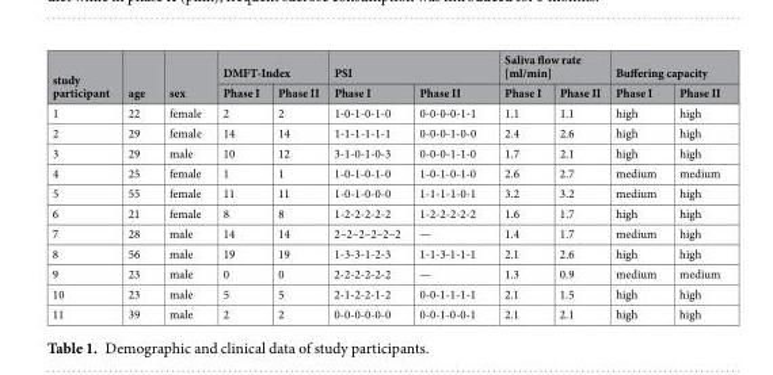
<table><thead><tr><td rowspan="2">study participant</td><td rowspan="2">age</td><td rowspan="2">sex</td><td colspan="2">DMFT-Index</td><td colspan="2">PSI</td><td colspan="2">Saliva flow rate [ml/min]</td><td colspan="2">Buffering capacity</td></tr><tr><td>Phase I</td><td>Phase II</td><td>Phase I</td><td>Phase II</td><td>Phase I</td><td>Phase II</td><td>Phase I</td><td>Phase II</td></tr></thead><tbody><tr><td>1</td><td>22</td><td>female</td><td>2</td><td>2</td><td>1-0-1-0-1-0</td><td>0-0-0-0-1-1</td><td>1.1</td><td>1.1</td><td>high</td><td>high</td></tr><tr><td>2</td><td>29</td><td>female</td><td>14</td><td>14</td><td>1-1-1-1-1-1</td><td>0-0-0-1-0-0</td><td>2.4</td><td>2.6</td><td>high</td><td>high</td></tr><tr><td>3</td><td>29</td><td>male</td><td>10</td><td>12</td><td>3-1-0-1-0-3</td><td>0-0-0-1-1-0</td><td>1.7</td><td>2.1</td><td>high</td><td>high</td></tr><tr><td>4</td><td>25</td><td>female</td><td>1</td><td>1</td><td>1-0-1-0-1-0</td><td>1-0-1-0-1-0</td><td>2.6</td><td>2.7</td><td>medium</td><td>medium</td></tr><tr><td>5</td><td>55</td><td>female</td><td>11</td><td>11</td><td>1-0-1-0-0-0</td><td>1-1-1-1-0-1</td><td>3.2</td><td>3.2</td><td>medium</td><td>high</td></tr><tr><td>6</td><td>21</td><td>female</td><td>8</td><td>8</td><td>1-2-2-2-2-2</td><td>1-2-2-2-2-2</td><td>1.6</td><td>1.7</td><td>high</td><td>high</td></tr><tr><td>7</td><td>28</td><td>male</td><td>14</td><td>14</td><td>2–2–2–2–2–2</td><td>—</td><td>1.4</td><td>1.7</td><td>medium</td><td>high</td></tr><tr><td>8</td><td>56</td><td>male</td><td>19</td><td>19</td><td>1-3-3-1-2-3</td><td>1-1-3-1-1-1</td><td>2.1</td><td>2.6</td><td>high</td><td>high</td></tr><tr><td>9</td><td>23</td><td>male</td><td>0</td><td>0</td><td>2-2-2-2-2-2</td><td>—</td><td>1.3</td><td>0.9</td><td>medium</td><td>medium</td></tr><tr><td>10</td><td>23</td><td>male</td><td>5</td><td>5</td><td>2-1-2-2-1-2</td><td>0-0-1-1-1-1</td><td>2.1</td><td>1.5</td><td>high</td><td>high</td></tr><tr><td>11</td><td>39</td><td>male</td><td>2</td><td>2</td><td>0-0-0-0-0-0</td><td>0-0-1-0-0-1</td><td>2.1</td><td>2.1</td><td>high</td><td>high</td></tr></tbody></table>